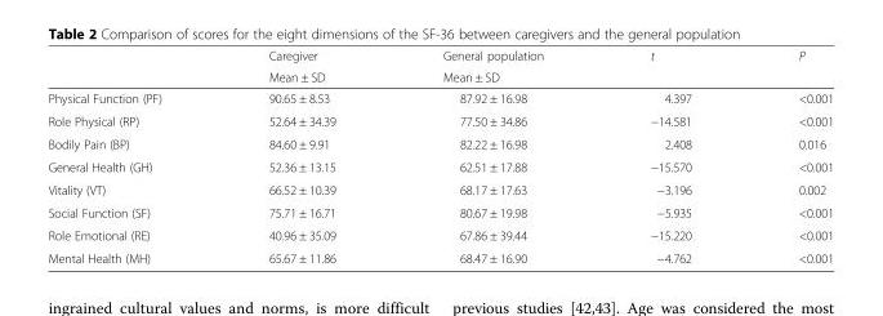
<table><thead><tr><td rowspan="2"></td><td rowspan="2">Caregiver Mean ± SD</td><td rowspan="2">General population Mean ± SD</td><td rowspan="2">t</td><td rowspan="2">P</td></tr><tr></tr></thead><tbody><tr><td>Physical Function (PF)</td><td>90.65 ± 8.53</td><td>87.92 ± 16.98</td><td>4.397</td><td>&lt;0.001</td></tr><tr><td>Role Physical (RP)</td><td>52.64 ± 34.39</td><td>77.50 ± 34.86</td><td>−14.581</td><td>&lt;0.001</td></tr><tr><td>Bodily Pain (BP)</td><td>84.60 ± 9.91</td><td>82.22 ± 16.98</td><td>2.408</td><td>0.016</td></tr><tr><td>General Health (GH)</td><td>52.36 ± 13.15</td><td>62.51 ± 17.88</td><td>−15.570</td><td>&lt;0.001</td></tr><tr><td>Vitality (VT)</td><td>66.52 ± 10.39</td><td>68.17 ± 17.63</td><td>−3.196</td><td>0.002</td></tr><tr><td>Social Function (SF)</td><td>75.71 ± 16.71</td><td>80.67 ± 19.98</td><td>−5.935</td><td>&lt;0.001</td></tr><tr><td>Role Emotional (RE)</td><td>40.96 ± 35.09</td><td>67.86 ± 39.44</td><td>−15.220</td><td>&lt;0.001</td></tr><tr><td>Mental Health (MH)</td><td>65.67 ± 11.86</td><td>68.47 ± 16.90</td><td>−4.762</td><td>&lt;0.001</td></tr></tbody></table>